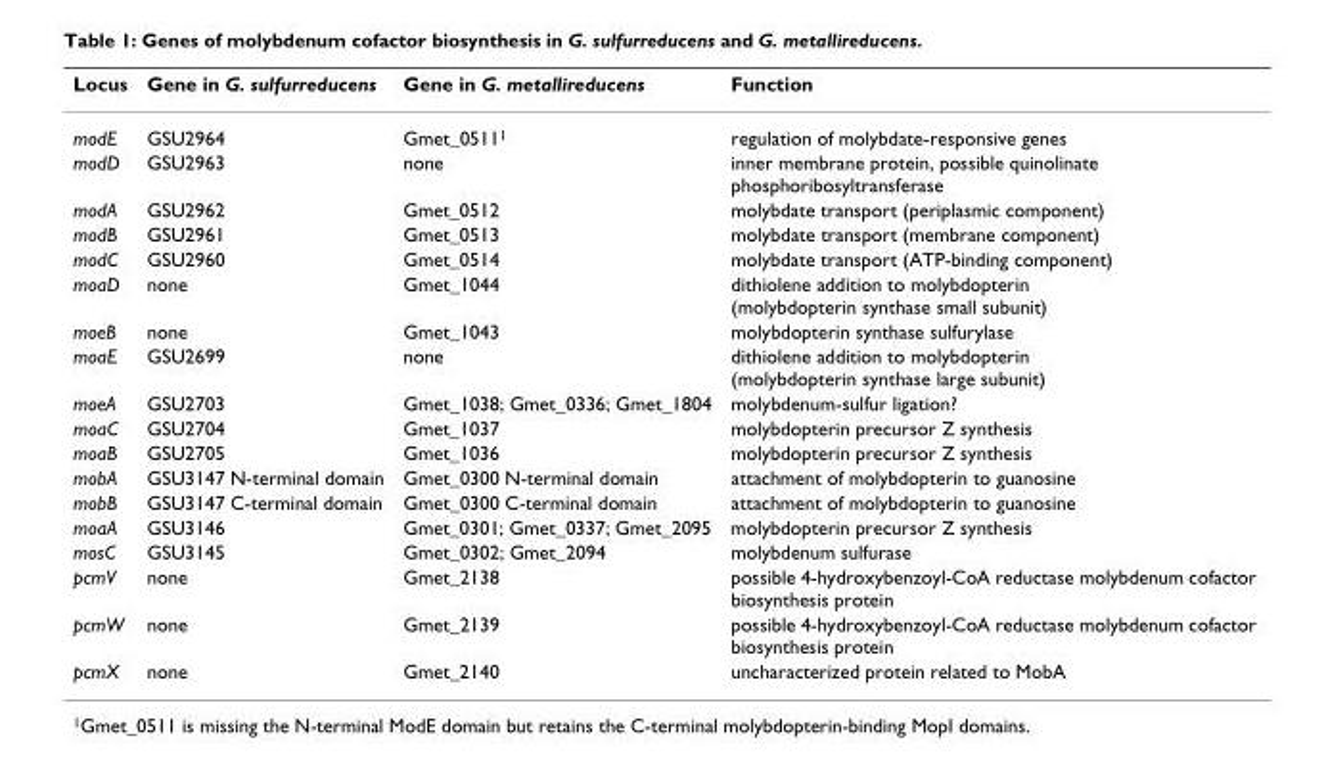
<table><thead><tr><td>Locus</td><td>Gene in G. sulfurreducens</td><td>Gene in G. metallireducens</td><td>Function</td></tr></thead><tbody><tr><td>modE</td><td>GSU2964</td><td>Gmet_0511<sup>1</sup></td><td>regulation of molybdate-responsive genes</td></tr><tr><td>modD</td><td>GSU2963</td><td>none</td><td>inner membrane protein, possible quinolinate phosphoribosyltransferase</td></tr><tr><td>modA</td><td>GSU2962</td><td>Gmet_0512</td><td>molybdate transport (periplasmic component)</td></tr><tr><td>modB</td><td>GSU2961</td><td>Gmet_0513</td><td>molybdate transport (membrane component)</td></tr><tr><td>modC</td><td>GSU2960</td><td>Gmet_0514</td><td>molybdate transport (ATP-binding component)</td></tr><tr><td>moaD</td><td>none</td><td>Gmet_1044</td><td>dithiolene addition to molybdopterin (molybdopterin synthase small subunit)</td></tr><tr><td>moeB</td><td>none</td><td>Gmet_1043</td><td>molybdopterin synthase sulfurylase</td></tr><tr><td>moaE</td><td>GSU2699</td><td>none</td><td>dithiolene addition to molybdopterin (molybdopterin synthase large subunit)</td></tr><tr><td>moeA</td><td>GSU2703</td><td>Gmet_1038; Gmet_0336; Gmet_1804</td><td>molybdenum-sulfur ligation?</td></tr><tr><td>moaC</td><td>GSU2704</td><td>Gmet_1037</td><td>molybdopterin precursor Z synthesis</td></tr><tr><td>moaB</td><td>GSU2705</td><td>Gmet_1036</td><td>molybdopterin precursor Z synthesis</td></tr><tr><td>mobA</td><td>GSU3147 N-terminal domain</td><td>Gmet_0300 N-terminal domain</td><td>attachment of molybdopterin to guanosine</td></tr><tr><td>mobB</td><td>GSU3147 C-terminal domain</td><td>Gmet_0300 C-terminal domain</td><td>attachment of molybdopterin to guanosine</td></tr><tr><td>moaA</td><td>GSU3146</td><td>Gmet_0301; Gmet_0337; Gmet_2095</td><td>molybdopterin precursor Z synthesis</td></tr><tr><td>mosC</td><td>GSU3145</td><td>Gmet_0302; Gmet_2094</td><td>molybdenum sulfurase</td></tr><tr><td>pcmV</td><td>none</td><td>Gmet_2138</td><td>possible 4-hydroxybenzoyl-CoA reductase molybdenum cofactor biosynthesis protein</td></tr><tr><td>pcmW</td><td>none</td><td>Gmet_2139</td><td>possible 4-hydroxybenzoyl-CoA reductase molybdenum cofactor biosynthesis protein</td></tr><tr><td>pcmX</td><td>none</td><td>Gmet_2140</td><td>uncharacterized protein related to MobA</td></tr></tbody></table>